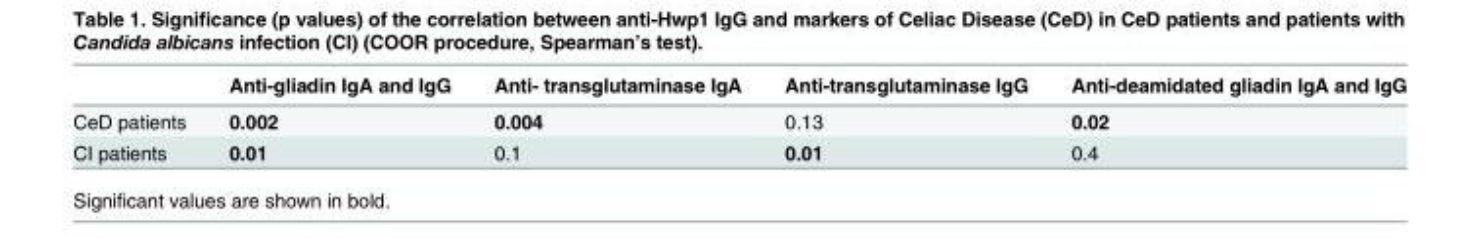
<table><thead><tr><td></td><td>Anti-gliadin IgA and IgG</td><td>Anti- transglutaminase IgA</td><td>Anti-transglutaminase IgG</td><td>Anti-deamidated gliadin IgA and IgG</td></tr></thead><tbody><tr><td>CeD patients</td><td>0.002</td><td>0.004</td><td>0.13</td><td>0.02</td></tr><tr><td>CI patients</td><td>0.01</td><td>0.1</td><td>0.01</td><td>0.4</td></tr></tbody></table>